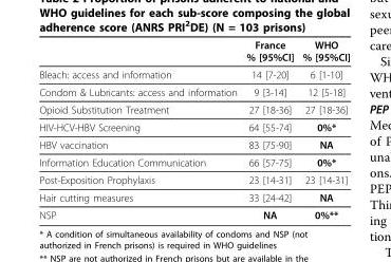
<table><thead><tr><td></td><td>France % [95%CI]</td><td>WHO % [95%CI]</td></tr></thead><tbody><tr><td>Bleach: access and information</td><td>14 [7-20]</td><td>6 [1-10]</td></tr><tr><td>Condom &amp; Lubricants: access and information</td><td>9 [3-14]</td><td>12 [5-18]</td></tr><tr><td>Opioid Substitution Treatment</td><td>27 [18-36]</td><td>27 [18-36]</td></tr><tr><td>HIV-HCV-HBV Screening</td><td>64 [55-74]</td><td>0%*</td></tr><tr><td>HBV vaccination</td><td>83 [75-90]</td><td>NA</td></tr><tr><td>Information Education Communication</td><td>66 [57-75]</td><td>0%*</td></tr><tr><td>Post-Exposition Prophylaxis</td><td>23 [14-31]</td><td>23 [14-31]</td></tr><tr><td>Hair cutting measures</td><td>33 [24-42]</td><td>NA</td></tr><tr><td>NSP</td><td>NA</td><td>0%**</td></tr></tbody></table>